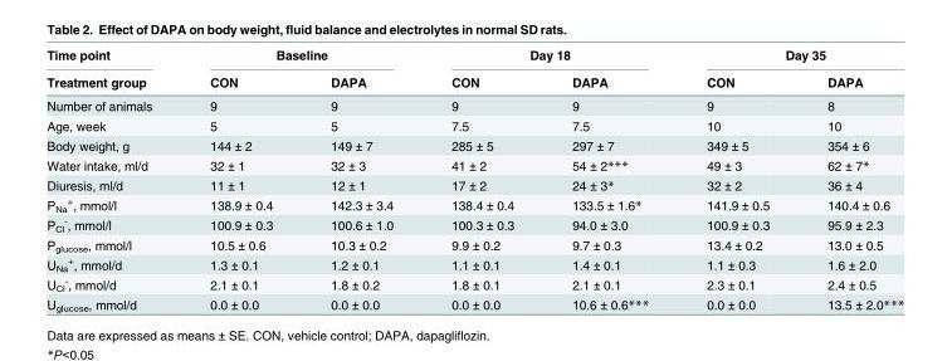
<table><thead><tr><td rowspan="2">Time point Treatment group</td><td colspan="2">Baseline</td><td colspan="2">Day 18</td><td colspan="2">Day 35</td></tr><tr><td>CON</td><td>DAPA</td><td>CON</td><td>DAPA</td><td>CON</td><td>DAPA</td></tr></thead><tbody><tr><td>Number of animals</td><td>9</td><td>9</td><td>9</td><td>9</td><td>9</td><td>8</td></tr><tr><td>Age, week</td><td>5</td><td>5</td><td>7.5</td><td>7.5</td><td>10</td><td>10</td></tr><tr><td>Body weight, g</td><td>144 ± 2</td><td>149 ± 7</td><td>285 ± 5</td><td>297 ± 7</td><td>349 ± 5</td><td>354 ± 6</td></tr><tr><td>Water intake, ml/d</td><td>32 ± 1</td><td>32 ± 3</td><td>41 ± 2</td><td>54 ± 2***</td><td>49 ± 3</td><td>62 ± 7*</td></tr><tr><td>Diuresis, ml/d</td><td>11 ± 1</td><td>12 ± 1</td><td>17 ± 2</td><td>24 ± 3*</td><td>32 ± 2</td><td>36 ± 4</td></tr><tr><td>P<sub>Na</sub> <sup>+</sup>, mmol/l</td><td>138.9 ± 0.4</td><td>142.3 ± 3.4</td><td>138.4 ± 0.4</td><td>133.5 ± 1.6*</td><td>141.9 ± 0.5</td><td>140.4 ± 0.6</td></tr><tr><td>P<sub>Cl</sub> <sup>-</sup>, mmol/l</td><td>100.9 ± 0.3</td><td>100.6 ± 1.0</td><td>100.3 ± 0.3</td><td>94.0 ± 3.0</td><td>100.9 ± 0.3</td><td>95.9 ± 2.3</td></tr><tr><td>P<sub>glucose</sub>, mmol/l</td><td>10.5 ± 0.6</td><td>10.3 ± 0.2</td><td>9.9 ± 0.2</td><td>9.7 ± 0.3</td><td>13.4 ± 0.2</td><td>13.0 ± 0.5</td></tr><tr><td>U<sub>Na</sub> <sup>+</sup>, mmol/d</td><td>1.3 ± 0.1</td><td>1.2 ± 0.1</td><td>1.1 ± 0.1</td><td>1.4 ± 0.1</td><td>1.1 ± 0.3</td><td>1.6 ± 2.0</td></tr><tr><td>U<sub>Cl</sub> <sup>-</sup>, mmol/d</td><td>2.1 ± 0.1</td><td>1.8 ± 0.2</td><td>1.8 ± 0.1</td><td>2.1 ± 0.1</td><td>2.3 ± 0.1</td><td>2.4 ± 0.5</td></tr><tr><td>U<sub>glucose</sub>, mmol/d</td><td>0.0 ± 0.0</td><td>0.0 ± 0.0</td><td>0.0 ± 0.0</td><td>10.6 ± 0.6***</td><td>0.0 ± 0.0</td><td>13.5 ± 2.0***</td></tr></tbody></table>